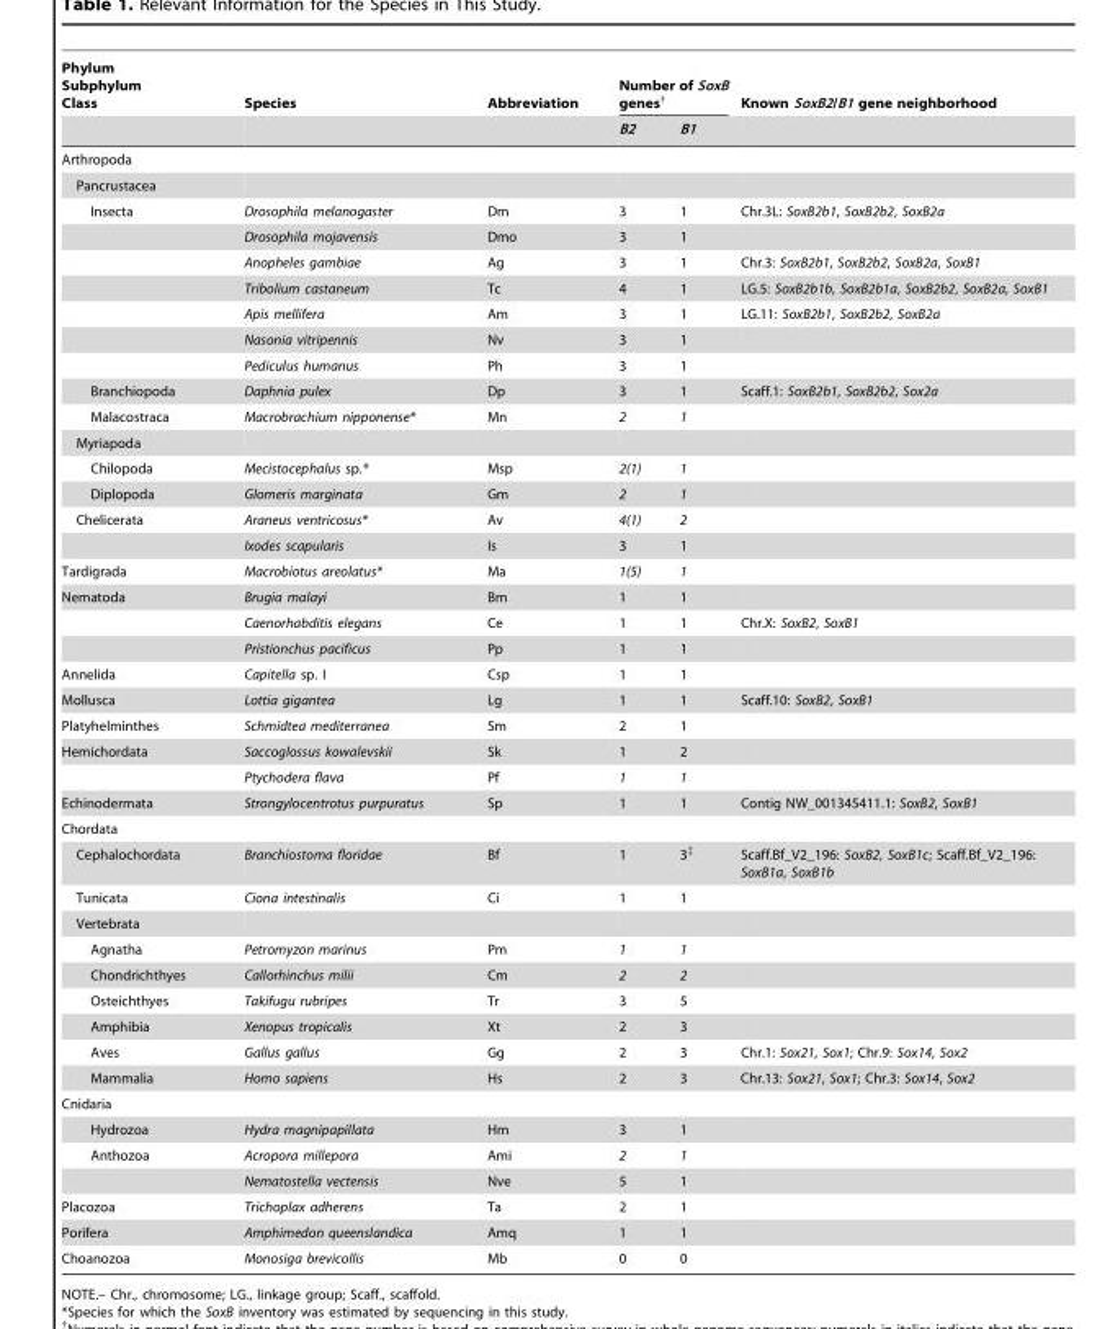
<table><thead><tr><td rowspan="2">Phylum Subphylum Class</td><td rowspan="2">Species</td><td rowspan="2">Abbreviation</td><td colspan="2">Number of SoxB genes†</td><td rowspan="2">Known SoxB2/B1 gene neighborhood</td></tr><tr><td>B2</td><td>B1</td></tr></thead><tbody><tr><td colspan="6">Arthropoda</td></tr><tr><td colspan="6">Pancrustacea</td></tr><tr><td rowspan="7">Insecta</td><td>Drosophila melanogaster</td><td>Dm</td><td>3</td><td>1</td><td>Chr.3L: SoxB2b1, SoxB2b2, SoxB2a</td></tr><tr><td>Drosophila mojavensis</td><td>Dmo</td><td>3</td><td>1</td><td></td></tr><tr><td>Anopheles gambiae</td><td>Ag</td><td>3</td><td>1</td><td>Chr.3: SoxB2b1, SoxB2b2, SoxB2a, SoxB1</td></tr><tr><td>Tribolium castaneum</td><td>Tc</td><td>4</td><td>1</td><td>LG.5: SoxB2b1b, SoxB2b1a, SoxB2b2, SoxB2a, SoxB1</td></tr><tr><td>Apis mellifera</td><td>Am</td><td>3</td><td>1</td><td>LG.11: SoxB2b1, SoxB2b2, SoxB2a</td></tr><tr><td>Nasonia vitripennis</td><td>Nv</td><td>3</td><td>1</td><td></td></tr><tr><td>Pediculus humanus</td><td>Ph</td><td>3</td><td>1</td><td></td></tr><tr><td>Branchiopoda</td><td>Daphnia pulex</td><td>Dp</td><td>3</td><td>1</td><td>Scaff.1: SoxB2b1, SoxB2b2, Sox2a</td></tr><tr><td>Malacostraca</td><td>Macrobrachium nipponense*</td><td>Mn</td><td>2</td><td>1</td><td></td></tr><tr><td colspan="6">Myriapoda</td></tr><tr><td>Chilopoda</td><td>Mecistocephalus sp.*</td><td>Msp</td><td>2(1)</td><td>1</td><td></td></tr><tr><td>Diplopoda</td><td>Glomeris marginata</td><td>Gm</td><td>2</td><td>1</td><td></td></tr><tr><td rowspan="2">Chelicerata</td><td>Araneus ventricosus*</td><td>Av</td><td>4(1)</td><td>2</td><td></td></tr><tr><td>Ixodes scapularis</td><td>Is</td><td>3</td><td>1</td><td></td></tr><tr><td>Tardigrada</td><td>Macrobiotus areolatus*</td><td>Ma</td><td>1(5)</td><td>1</td><td></td></tr><tr><td rowspan="3">Nematoda</td><td>Brugia malayi</td><td>Bm</td><td>1</td><td>1</td><td></td></tr><tr><td>Caenorhabditis elegans</td><td>Ce</td><td>1</td><td>1</td><td>Chr.X: SoxB2, SoxB1</td></tr><tr><td>Pristionchus pacificus</td><td>Pp</td><td>1</td><td>1</td><td></td></tr><tr><td>Annelida</td><td>Capitella sp. I</td><td>Csp</td><td>1</td><td>1</td><td></td></tr><tr><td>Mollusca</td><td>Lottia gigantea</td><td>Lg</td><td>1</td><td>1</td><td>Scaff.10: SoxB2, SoxB1</td></tr><tr><td>Platyhelminthes</td><td>Schmidtea mediterranea</td><td>Sm</td><td>2</td><td>1</td><td></td></tr><tr><td rowspan="2">Hemichordata</td><td>Saccoglossus kowalevskii</td><td>Sk</td><td>1</td><td>2</td><td></td></tr><tr><td>Ptychodera flava</td><td>Pf</td><td>1</td><td>1</td><td></td></tr><tr><td>Echinodermata</td><td>Strongylocentrotus purpuratus</td><td>Sp</td><td>1</td><td>1</td><td>Contig NW_001345411.1: SoxB2, SoxB1</td></tr><tr><td colspan="6">Chordata</td></tr><tr><td>Cephalochordata</td><td>Branchiostoma floridae</td><td>Bf</td><td>1</td><td>3‡</td><td>Scaff.Bf_V2_196: SoxB2, SoxB1c; Scaff.Bf_V2_196: SoxB1a, SoxB1b</td></tr><tr><td>Tunicata</td><td>Ciona intestinalis</td><td>Ci</td><td>1</td><td>1</td><td></td></tr><tr><td colspan="6">Vertebrata</td></tr><tr><td>Agnatha</td><td>Petromyzon marinus</td><td>Pm</td><td>1</td><td>1</td><td></td></tr><tr><td>Chondrichthyes</td><td>Callorhinchus milii</td><td>Cm</td><td>2</td><td>2</td><td></td></tr><tr><td>Osteichthyes</td><td>Takifugu rubripes</td><td>Tr</td><td>3</td><td>5</td><td></td></tr><tr><td>Amphibia</td><td>Xenopus tropicalis</td><td>Xt</td><td>2</td><td>3</td><td></td></tr><tr><td>Aves</td><td>Gallus gallus</td><td>Gg</td><td>2</td><td>3</td><td>Chr.1: Sox21, Sox1; Chr.9: Sox14, Sox2</td></tr><tr><td>Mammalia</td><td>Homo sapiens</td><td>Hs</td><td>2</td><td>3</td><td>Chr.13: Sox21, Sox1; Chr.3: Sox14, Sox2</td></tr><tr><td colspan="6">Cnidaria</td></tr><tr><td>Hydrozoa</td><td>Hydra magnipapillata</td><td>Hm</td><td>3</td><td>1</td><td></td></tr><tr><td rowspan="2">Anthozoa</td><td>Acropora millepora</td><td>Ami</td><td>2</td><td>1</td><td></td></tr><tr><td>Nematostella vectensis</td><td>Nve</td><td>5</td><td>1</td><td></td></tr><tr><td>Placozoa</td><td>Trichoplax adherens</td><td>Ta</td><td>2</td><td>1</td><td></td></tr><tr><td>Porifera</td><td>Amphimedon queenslandica</td><td>Amq</td><td>1</td><td>1</td><td></td></tr><tr><td>Choanozoa</td><td>Monosiga brevicollis</td><td>Mb</td><td>0</td><td>0</td><td></td></tr></tbody></table>